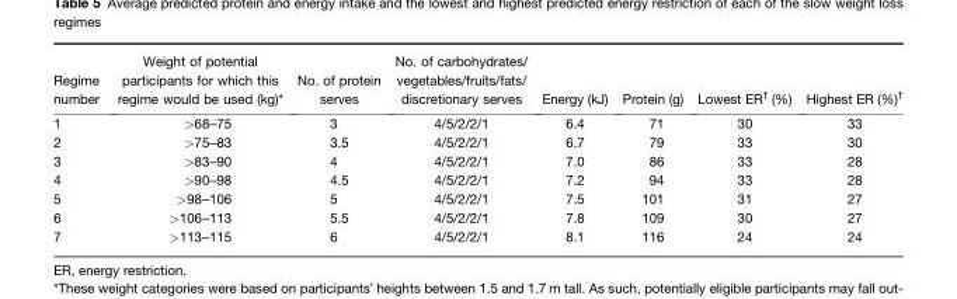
<table><thead><tr><td>Regime number</td><td>Weight of potential participants for which this regime would be used (kg)*</td><td>No. of protein serves</td><td>No. of carbohydrates/ vegetables/fruits/fats/ discretionary serves</td><td>Energy (kJ)</td><td>Protein (g)</td><td>Lowest ER† (%)</td><td>Highest ER (%)†</td></tr></thead><tbody><tr><td>1</td><td>&gt;68–75</td><td>3</td><td>4/5/2/2/1</td><td>6.4</td><td>71</td><td>30</td><td>33</td></tr><tr><td>2</td><td>&gt;75–83</td><td>3.5</td><td>4/5/2/2/1</td><td>6.7</td><td>79</td><td>33</td><td>30</td></tr><tr><td>3</td><td>&gt;83–90</td><td>4</td><td>4/5/2/2/1</td><td>7.0</td><td>86</td><td>33</td><td>28</td></tr><tr><td>4</td><td>&gt;90–98</td><td>4.5</td><td>4/5/2/2/1</td><td>7.2</td><td>94</td><td>33</td><td>28</td></tr><tr><td>5</td><td>&gt;98–106</td><td>5</td><td>4/5/2/2/1</td><td>7.5</td><td>101</td><td>31</td><td>27</td></tr><tr><td>6</td><td>&gt;106–113</td><td>5.5</td><td>4/5/2/2/1</td><td>7.8</td><td>109</td><td>30</td><td>27</td></tr><tr><td>7</td><td>&gt;113–115</td><td>6</td><td>4/5/2/2/1</td><td>8.1</td><td>116</td><td>24</td><td>24</td></tr></tbody></table>